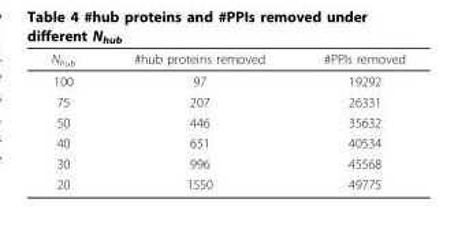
<table><thead><tr><td>N<sub>hub</sub></td><td>#hub proteins removed</td><td>#PPIs removed</td></tr></thead><tbody><tr><td>100</td><td>97</td><td>19292</td></tr><tr><td>75</td><td>207</td><td>26331</td></tr><tr><td>50</td><td>446</td><td>35632</td></tr><tr><td>40</td><td>651</td><td>40534</td></tr><tr><td>30</td><td>996</td><td>45568</td></tr><tr><td>20</td><td>1550</td><td>49775</td></tr></tbody></table>